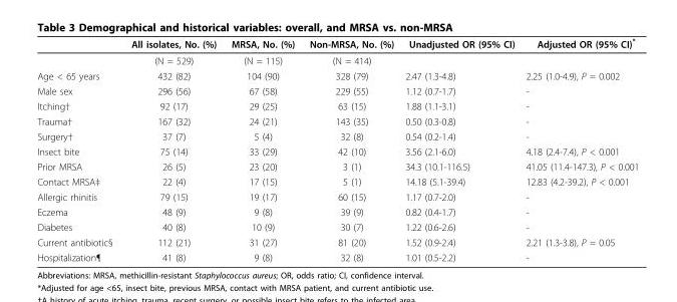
<table><thead><tr><td></td><td>All isolates, No. (%)</td><td>MRSA, No. (%)</td><td>Non-MRSA, No. (%)</td><td>Unadjusted OR (95% CI)</td><td>Adjusted OR (95% CI)*</td></tr></thead><tbody><tr><td></td><td>(N = 529)</td><td>(N = 115)</td><td>(N = 414)</td><td></td><td></td></tr><tr><td>Age &lt; 65 years</td><td>432 (82)</td><td>104 (90)</td><td>328 (79)</td><td>2.47 (1.3-4.8)</td><td>2.25 (1.0-4.9), P = 0.002</td></tr><tr><td>Male sex</td><td>296 (56)</td><td>67 (58)</td><td>229 (55)</td><td>1.12 (0.7-1.7)</td><td>-</td></tr><tr><td>Itching†</td><td>92 (17)</td><td>29 (25)</td><td>63 (15)</td><td>1.88 (1.1-3.1)</td><td>-</td></tr><tr><td>Trauma†</td><td>167 (32)</td><td>24 (21)</td><td>143 (35)</td><td>0.50 (0.3-0.8)</td><td>-</td></tr><tr><td>Surgery†</td><td>37 (7)</td><td>5 (4)</td><td>32 (8)</td><td>0.54 (0.2-1.4)</td><td>-</td></tr><tr><td>Insect bite</td><td>75 (14)</td><td>33 (29)</td><td>42 (10)</td><td>3.56 (2.1-6.0)</td><td>4.18 (2.4-7.4), P &lt; 0.001</td></tr><tr><td>Prior MRSA</td><td>26 (5)</td><td>23 (20)</td><td>3 (1)</td><td>34.3 (10.1-116.5)</td><td>41.05 (11.4-147.3), P &lt; 0.001</td></tr><tr><td>Contact MRSA‡</td><td>22 (4)</td><td>17 (15)</td><td>5 (1)</td><td>14.18 (5.1-39.4)</td><td>12.83 (4.2-39.2), P &lt; 0.001</td></tr><tr><td>Allergic rhinitis</td><td>79 (15)</td><td>19 (17)</td><td>60 (15)</td><td>1.17 (0.7-2.0)</td><td>-</td></tr><tr><td>Eczema</td><td>48 (9)</td><td>9 (8)</td><td>39 (9)</td><td>0.82 (0.4-1.7)</td><td>-</td></tr><tr><td>Diabetes</td><td>40 (8)</td><td>10 (9)</td><td>30 (7)</td><td>1.22 (0.6-2.6)</td><td>-</td></tr><tr><td>Current antibiotic§</td><td>112 (21)</td><td>31 (27)</td><td>81 (20)</td><td>1.52 (0.9-2.4)</td><td>2.21 (1.3-3.8), P = 0.05</td></tr><tr><td>Hospitalization¶</td><td>41 (8)</td><td>9 (8)</td><td>32 (8)</td><td>1.01 (0.5-2.2)</td><td>-</td></tr></tbody></table>